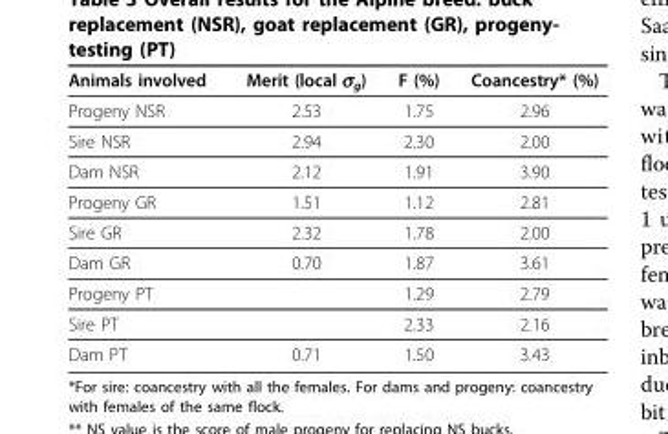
<table><thead><tr><td>Animals involved</td><td>Merit (local σ<sub>g</sub>)</td><td>F (%)</td><td>Coancestry* (%)</td></tr></thead><tbody><tr><td>Progeny NSR</td><td>2.53</td><td>1.75</td><td>2.96</td></tr><tr><td>Sire NSR</td><td>2.94</td><td>2.30</td><td>2.00</td></tr><tr><td>Dam NSR</td><td>2.12</td><td>1.91</td><td>3.90</td></tr><tr><td>Progeny GR</td><td>1.51</td><td>1.12</td><td>2.81</td></tr><tr><td>Sire GR</td><td>2.32</td><td>1.78</td><td>2.00</td></tr><tr><td>Dam GR</td><td>0.70</td><td>1.87</td><td>3.61</td></tr><tr><td>Progeny PT</td><td></td><td>1.29</td><td>2.79</td></tr><tr><td>Sire PT</td><td></td><td>2.33</td><td>2.16</td></tr><tr><td>Dam PT</td><td>0.71</td><td>1.50</td><td>3.43</td></tr></tbody></table>